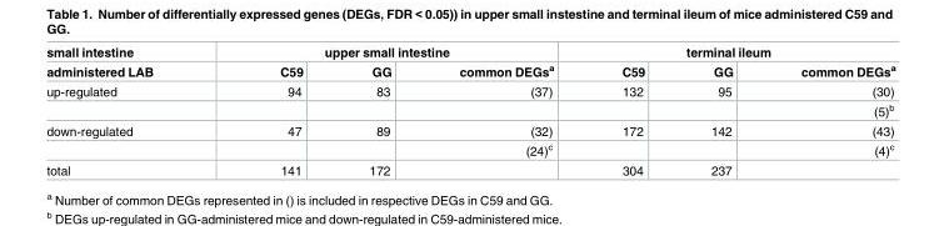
<table><thead><tr><td rowspan="2">small intestine administered LAB</td><td colspan="3">upper small intestine</td><td colspan="3">terminal ileum</td></tr><tr><td>C59</td><td>GG</td><td>common DEGs<sup>a</sup></td><td>C59</td><td>GG</td><td>common DEGs<sup>a</sup></td></tr></thead><tbody><tr><td rowspan="2">up-regulated</td><td>94</td><td>83</td><td>(37)</td><td>132</td><td>95</td><td>(30)</td></tr><tr><td></td><td></td><td></td><td></td><td></td><td>(5)<sup>b</sup></td></tr><tr><td rowspan="2">down-regulated</td><td>47</td><td>89</td><td>(32)</td><td>172</td><td>142</td><td>(43)</td></tr><tr><td></td><td></td><td>(24)<sup>c</sup></td><td></td><td></td><td>(4)<sup>c</sup></td></tr><tr><td>total</td><td>141</td><td>172</td><td></td><td>304</td><td>237</td><td></td></tr></tbody></table>